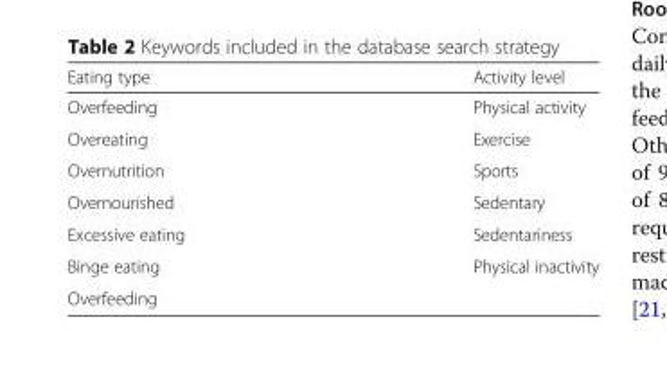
<table><thead><tr><td>Eating type</td><td>Activity level</td></tr></thead><tbody><tr><td>Overfeeding</td><td>Physical activity</td></tr><tr><td>Overeating</td><td>Exercise</td></tr><tr><td>Overnutrition</td><td>Sports</td></tr><tr><td>Overnourished</td><td>Sedentary</td></tr><tr><td>Excessive eating</td><td>Sedentariness</td></tr><tr><td>Binge eating</td><td>Physical inactivity</td></tr><tr><td>Overfeeding</td><td></td></tr></tbody></table>